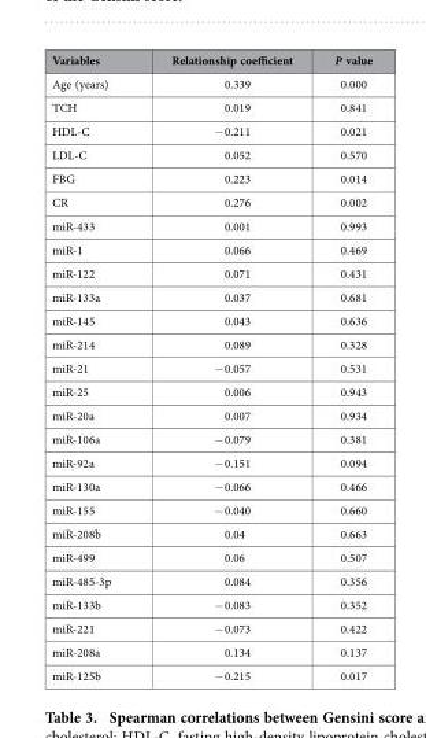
<table><thead><tr><td>Variables</td><td>Relationship coefficient</td><td>P value</td></tr></thead><tbody><tr><td>Age (years)</td><td>0.339</td><td>0.000</td></tr><tr><td>TCH</td><td>0.019</td><td>0.841</td></tr><tr><td>HDL-C</td><td>− 0.211</td><td>0.021</td></tr><tr><td>LDL-C</td><td>0.052</td><td>0.570</td></tr><tr><td>FBG</td><td>0.223</td><td>0.014</td></tr><tr><td>CR</td><td>0.276</td><td>0.002</td></tr><tr><td>miR-433</td><td>0.001</td><td>0.993</td></tr><tr><td>miR-1</td><td>0.066</td><td>0.469</td></tr><tr><td>miR-122</td><td>0.071</td><td>0.431</td></tr><tr><td>miR-133a</td><td>0.037</td><td>0.681</td></tr><tr><td>miR-145</td><td>0.043</td><td>0.636</td></tr><tr><td>miR-214</td><td>0.089</td><td>0.328</td></tr><tr><td>miR-21</td><td>− 0.057</td><td>0.531</td></tr><tr><td>miR-25</td><td>0.006</td><td>0.943</td></tr><tr><td>miR-20a</td><td>0.007</td><td>0.934</td></tr><tr><td>miR-106a</td><td>− 0.079</td><td>0.381</td></tr><tr><td>miR-92a</td><td>− 0.151</td><td>0.094</td></tr><tr><td>miR-130a</td><td>− 0.066</td><td>0.466</td></tr><tr><td>miR-155</td><td>− 0.040</td><td>0.660</td></tr><tr><td>miR-208b</td><td>0.04</td><td>0.663</td></tr><tr><td>miR-499</td><td>0.06</td><td>0.507</td></tr><tr><td>miR-485-3p</td><td>0.084</td><td>0.356</td></tr><tr><td>miR-133b</td><td>− 0.083</td><td>0.352</td></tr><tr><td>miR-221</td><td>− 0.073</td><td>0.422</td></tr><tr><td>miR-208a</td><td>0.134</td><td>0.137</td></tr><tr><td>miR-125b</td><td>− 0.215</td><td>0.017</td></tr></tbody></table>